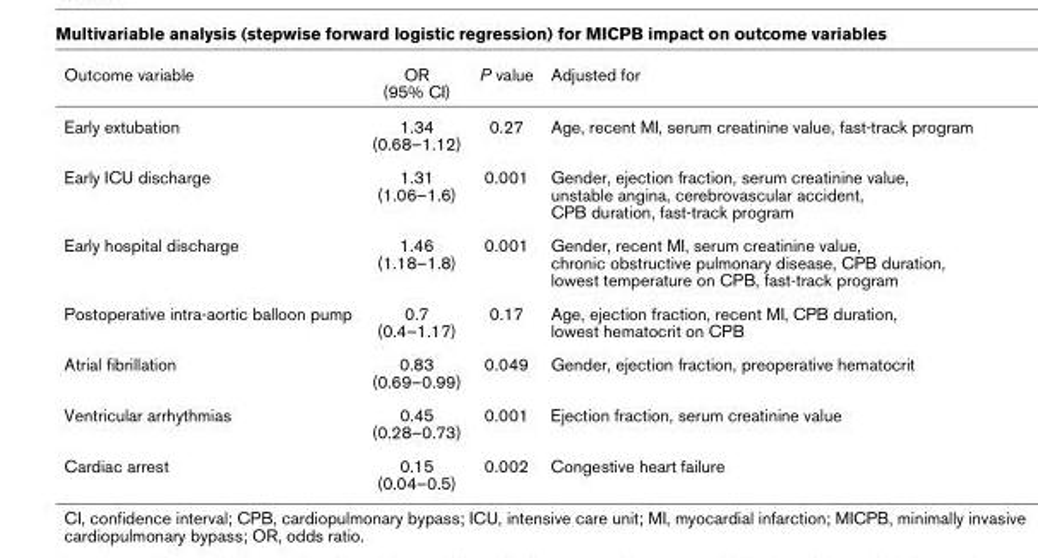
<table><thead><tr><td>Outcome variable</td><td>OR (95% CI)</td><td>P value</td><td>Adjusted for</td></tr></thead><tbody><tr><td>Early extubation</td><td>1.34 (0.68–1.12)</td><td>0.27</td><td>Age, recent MI, serum creatinine value, fast-track program</td></tr><tr><td>Early ICU discharge</td><td>1.31 (1.06–1.6)</td><td>0.001</td><td>Gender, ejection fraction, serum creatinine value, unstable angina, cerebrovascular accident, CPB duration, fast-track program</td></tr><tr><td>Early hospital discharge</td><td>1.46 (1.18–1.8)</td><td>0.001</td><td>Gender, recent MI, serum creatinine value, chronic obstructive pulmonary disease, CPB duration, lowest temperature on CPB, fast-track program</td></tr><tr><td>Postoperative intra-aortic balloon pump</td><td>0.7 (0.4–1.17)</td><td>0.17</td><td>Age, ejection fraction, recent MI, CPB duration, lowest hematocrit on CPB</td></tr><tr><td>Atrial fibrillation</td><td>0.83 (0.69–0.99)</td><td>0.049</td><td>Gender, ejection fraction, preoperative hematocrit</td></tr><tr><td>Ventricular arrhythmias</td><td>0.45 (0.28–0.73)</td><td>0.001</td><td>Ejection fraction, serum creatinine value</td></tr><tr><td>Cardiac arrest</td><td>0.15 (0.04–0.5)</td><td>0.002</td><td>Congestive heart failure</td></tr></tbody></table>